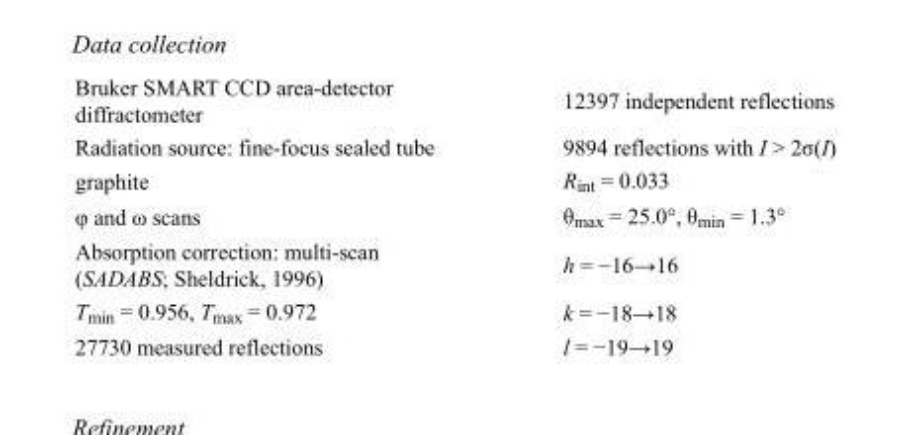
<table><tbody><tr><td>Bruker SMART CCD area-detector diffractometer</td><td>12397 independent reflections</td></tr><tr><td>Radiation source: fine-focus sealed tube</td><td>9894 reflections with I &gt; 2σ(I)</td></tr><tr><td>graphite</td><td>R<sub>int</sub> = 0.033</td></tr><tr><td>φ and ω scans</td><td>θ<sub>max</sub> = 25.0°, θ<sub>min</sub> = 1.3°</td></tr><tr><td>Absorption correction: multi-scan (SADABS; Sheldrick, 1996)</td><td>h = −16→16</td></tr><tr><td>T<sub>min</sub> = 0.956, T<sub>max</sub> = 0.972</td><td>k = −18→18</td></tr><tr><td>27730 measured reflections</td><td>l = −19→19</td></tr></tbody></table>